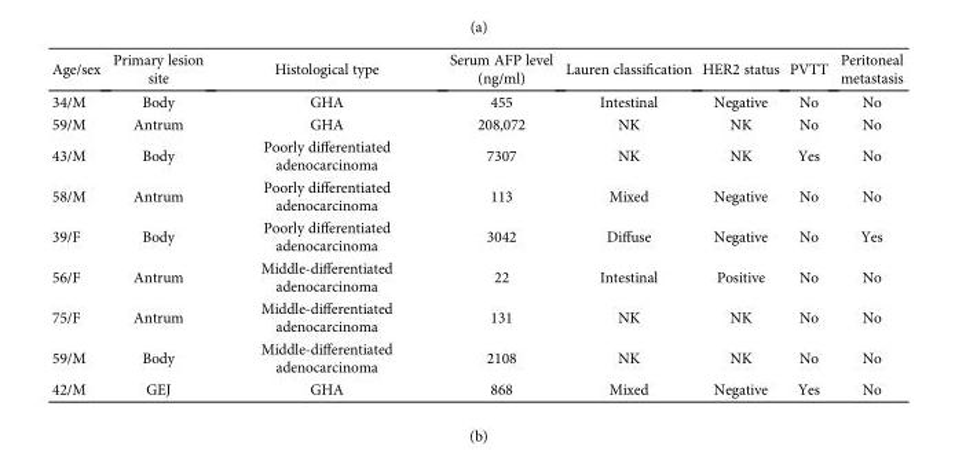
<table><thead><tr><td>Age/sex</td><td>Primary lesion site</td><td>Histological type</td><td>Serum AFP level (ng/ml)</td><td>Lauren classification</td><td>HER2 status</td><td>PVTT</td><td>Peritoneal metastasis</td></tr></thead><tbody><tr><td>34/M</td><td>Body</td><td>GHA</td><td>455</td><td>Intestinal</td><td>Negative</td><td>No</td><td>No</td></tr><tr><td>59/M</td><td>Antrum</td><td>GHA</td><td>208,072</td><td>NK</td><td>NK</td><td>No</td><td>No</td></tr><tr><td>43/M</td><td>Body</td><td>Poorly differentiated adenocarcinoma</td><td>7307</td><td>NK</td><td>NK</td><td>Yes</td><td>No</td></tr><tr><td>58/M</td><td>Antrum</td><td>Poorly differentiated adenocarcinoma</td><td>113</td><td>Mixed</td><td>Negative</td><td>No</td><td>No</td></tr><tr><td>39/F</td><td>Body</td><td>Poorly differentiated adenocarcinoma</td><td>3042</td><td>Diffuse</td><td>Negative</td><td>No</td><td>Yes</td></tr><tr><td>56/F</td><td>Antrum</td><td>Middle-differentiated adenocarcinoma</td><td>22</td><td>Intestinal</td><td>Positive</td><td>No</td><td>No</td></tr><tr><td>75/F</td><td>Antrum</td><td>Middle-differentiated adenocarcinoma</td><td>131</td><td>NK</td><td>NK</td><td>No</td><td>No</td></tr><tr><td>59/M</td><td>Body</td><td>Middle-differentiated adenocarcinoma</td><td>2108</td><td>NK</td><td>NK</td><td>No</td><td>No</td></tr><tr><td>42/M</td><td>GEJ</td><td>GHA</td><td>868</td><td>Mixed</td><td>Negative</td><td>Yes</td><td>No</td></tr></tbody></table>